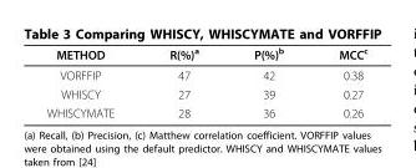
<table><thead><tr><td>METHOD</td><td>R(%)<sup>a</sup></td><td>P(%)<sup>b</sup></td><td>MCC<sup>c</sup></td></tr></thead><tbody><tr><td>VORFFIP</td><td>47</td><td>42</td><td>0.38</td></tr><tr><td>WHISCY</td><td>27</td><td>39</td><td>0.27</td></tr><tr><td>WHISCYMATE</td><td>28</td><td>36</td><td>0.26</td></tr></tbody></table>